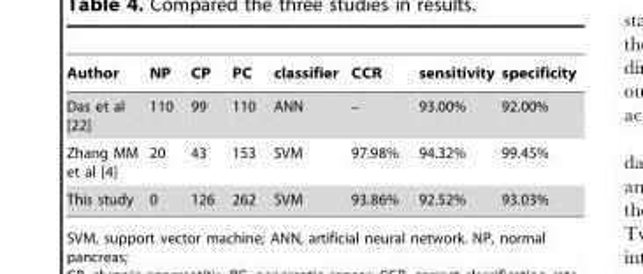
<table><thead><tr><td>Author</td><td>NP</td><td>CP</td><td>PC</td><td>classifier</td><td>CCR</td><td>sensitivity</td><td>specificity</td></tr></thead><tbody><tr><td>Das et al [22]</td><td>110</td><td>99</td><td>110</td><td>ANN</td><td>–</td><td>93.00%</td><td>92.00%</td></tr><tr><td>Zhang MM et al [4]</td><td>20</td><td>43</td><td>153</td><td>SVM</td><td>97.98%</td><td>94.32%</td><td>99.45%</td></tr><tr><td>This study</td><td>0</td><td>126</td><td>262</td><td>SVM</td><td>93.86%</td><td>92.52%</td><td>93.03%</td></tr></tbody></table>